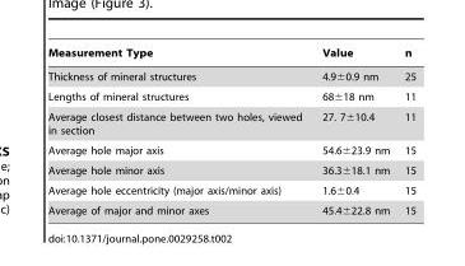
<table><thead><tr><td>Measurement Type</td><td>Value</td><td>n</td></tr></thead><tbody><tr><td>Thickness of mineral structures</td><td>4.9±0.9 nm</td><td>25</td></tr><tr><td>Lengths of mineral structures</td><td>68±18 nm</td><td>11</td></tr><tr><td>Average closest distance between two holes, viewed in section</td><td>27. 7±10.4</td><td>11</td></tr><tr><td>Average hole major axis</td><td>54.6±23.9 nm</td><td>15</td></tr><tr><td>Average hole minor axis</td><td>36.3±18.1 nm</td><td>15</td></tr><tr><td>Average hole eccentricity (major axis/minor axis)</td><td>1.6±0.4</td><td>15</td></tr><tr><td>Average of major and minor axes</td><td>45.4±22.8 nm</td><td>15</td></tr></tbody></table>